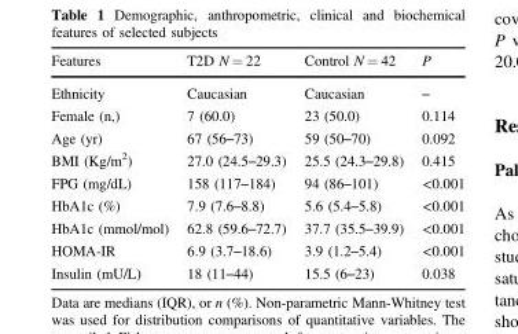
<table><thead><tr><td>Features</td><td>T2D N = 22</td><td>Control N = 42</td><td>P</td></tr></thead><tbody><tr><td>Ethnicity</td><td>Caucasian</td><td>Caucasian</td><td>–</td></tr><tr><td>Female (n,)</td><td>7 (60.0)</td><td>23 (50.0)</td><td>0.114</td></tr><tr><td>Age (yr)</td><td>67 (56–73)</td><td>59 (50–70)</td><td>0.092</td></tr><tr><td>BMI (Kg/m<sup>2</sup>)</td><td>27.0 (24.5–29.3)</td><td>25.5 (24.3–29.8)</td><td>0.415</td></tr><tr><td>FPG (mg/dL)</td><td>158 (117–184)</td><td>94 (86–101)</td><td>&lt;0.001</td></tr><tr><td>HbA1c (%)</td><td>7.9 (7.6–8.8)</td><td>5.6 (5.4–5.8)</td><td>&lt;0.001</td></tr><tr><td>HbA1c (mmol/mol)</td><td>62.8 (59.6–72.7)</td><td>37.7 (35.5–39.9)</td><td>&lt;0.001</td></tr><tr><td>HOMA-IR</td><td>6.9 (3.7–18.6)</td><td>3.9 (1.2–5.4)</td><td>&lt;0.001</td></tr><tr><td>Insulin (mU/L)</td><td>18 (11–44)</td><td>15.5 (6–23)</td><td>0.038</td></tr></tbody></table>